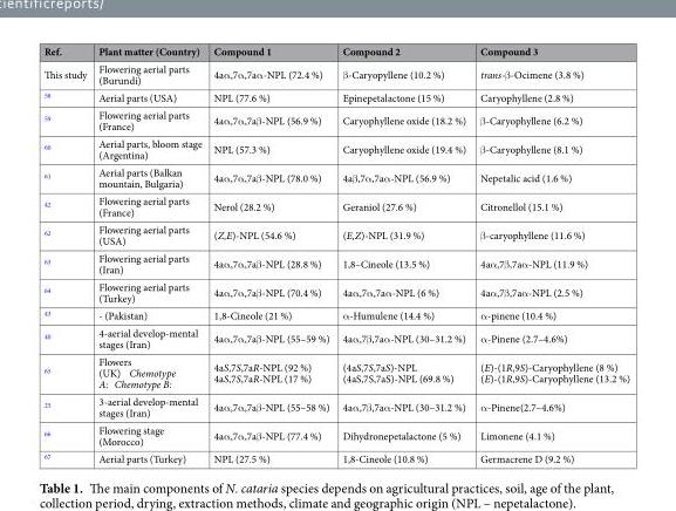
<table><thead><tr><td>Ref.</td><td>Plant matter (Country)</td><td>Compound 1</td><td>Compound 2</td><td>Compound 3</td></tr></thead><tbody><tr><td>This study</td><td>Flowering aerial parts (Burundi)</td><td>4aα,7α,7aα-NPL (72.4 %)</td><td>β-Caryopyllene (10.2 %)</td><td>trans-β-Ocimene (3.8 %)</td></tr><tr><td><sup>58</sup></td><td>Aerial parts (USA)</td><td>NPL (77.6 %)</td><td>Epinepetalactone (15 %)</td><td>Caryophyllene (2.8 %)</td></tr><tr><td><sup>59</sup></td><td>Flowering aerial parts (France)</td><td>4aα,7α,7aβ-NPL (56.9 %)</td><td>Caryophyllene oxide (18.2 %)</td><td>β-Caryophyllene (6.2 %)</td></tr><tr><td><sup>60</sup></td><td>Aerial parts, bloom stage (Argentina)</td><td>NPL (57.3 %)</td><td>Caryophyllene oxide (19.4 %)</td><td>β-Caryophyllene (8.1 %)</td></tr><tr><td><sup>61</sup></td><td>Aerial parts (Balkan mountain, Bulgaria)</td><td>4aα,7α,7aβ-NPL (78.0 %)</td><td>4aβ,7α,7aα-NPL (56.9 %)</td><td>Nepetalic acid (1.6 %)</td></tr><tr><td><sup>42</sup></td><td>Flowering aerial parts (France)</td><td>Nerol (28.2 %)</td><td>Geraniol (27.6 %)</td><td>Citronellol (15.1 %)</td></tr><tr><td><sup>62</sup></td><td>Flowering aerial parts (USA)</td><td>(Z,E)-NPL (54.6 %)</td><td>(E,Z)-NPL (31.9 %)</td><td>β-caryophyllene (11.6 %)</td></tr><tr><td><sup>63</sup></td><td>Flowering aerial parts (Iran)</td><td>4aα,7α,7aβ-NPL (28.8 %)</td><td>1,8–Cineole (13.5 %)</td><td>4aα,7β,7aα-NPL (11.9 %)</td></tr><tr><td><sup>64</sup></td><td>Flowering aerial parts (Turkey)</td><td>4aα,7α,7aβ-NPL (70.4 %)</td><td>4aα,7α,7aα-NPL (6 %)</td><td>4aα,7β,7aα-NPL (2.5 %)</td></tr><tr><td><sup>43</sup></td><td>- (Pakistan)</td><td>1,8-Cineole (21 %)</td><td>α-Humulene (14.4 %)</td><td>α-pinene (10.4 %)</td></tr><tr><td><sup>40</sup></td><td>4-aerial develop-mental stages (Iran)</td><td>4aα,7α,7aβ-NPL (55–59 %)</td><td>4aα,7β,7aα-NPL (30–31.2 %)</td><td>α-Pinene (2.7–4.6%)</td></tr><tr><td><sup>65</sup></td><td>Flowers (UK) Chemotype A: Chemotype B:</td><td>4aS,7S,7aR-NPL (92 %) 4aS,7S,7aR-NPL (17 %)</td><td>(4aS,7S,7aS)-NPL (4aS,7S,7aS)-NPL (69.8 %)</td><td>(E)-(1R,9S)-Caryophyllene (8 %) (E)-(1R,9S)-Caryophyllene (13.2 %)</td></tr><tr><td><sup>25</sup></td><td>3-aerial develop-mental stages (Iran)</td><td>4aα,7α,7aβ-NPL (55–58 %)</td><td>4aα,7β,7aα-NPL (30–31.2 %)</td><td>α-Pinene(2.7–4.6%)</td></tr><tr><td><sup>66</sup></td><td>Flowering stage (Morocco)</td><td>4aα,7α,7aβ-NPL (77.4 %)</td><td>Dihydronepetalactone (5 %)</td><td>Limonene (4.1 %)</td></tr><tr><td><sup>67</sup></td><td>Aerial parts (Turkey)</td><td>NPL (27.5 %)</td><td>1,8-Cineole (10.8 %)</td><td>Germacrene D (9.2 %)</td></tr></tbody></table>